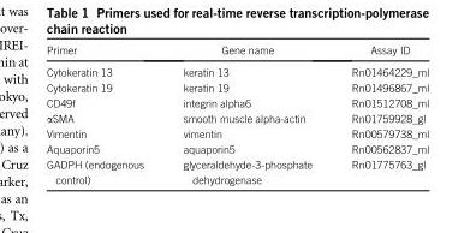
<table><thead><tr><td>Primer</td><td>Gene name</td><td>Assay ID</td></tr></thead><tbody><tr><td>Cytokeratin 13</td><td>keratin 13</td><td>Rn01464229_ml</td></tr><tr><td>Cytokeratin 19</td><td>keratin 19</td><td>Rn01496867_ml</td></tr><tr><td>CD49f</td><td>integrin alpha6</td><td>Rn01512708_ml</td></tr><tr><td>αSMA</td><td>smooth muscle alpha-actin</td><td>Rn01759928_gl</td></tr><tr><td>Vimentin</td><td>vimentin</td><td>Rn00579738_ml</td></tr><tr><td>Aquaporin5</td><td>aquaporin5</td><td>Rn00562837_ml</td></tr><tr><td>GADPH (endogenous control)</td><td>glyceraldehyde-3-phosphate dehydrogenase</td><td>Rn01775763_gl</td></tr></tbody></table>